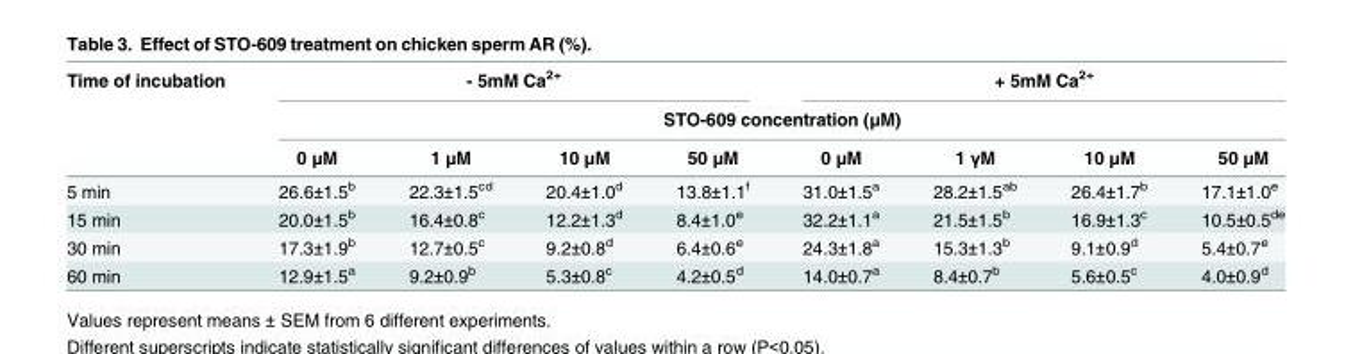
<table><thead><tr><td rowspan="3">Time of incubation</td><td colspan="4">- 5mM Ca<sup>2+</sup></td><td colspan="4">+ 5mM Ca<sup>2+</sup></td></tr><tr><td colspan="8">STO-609 concentration (μM)</td></tr><tr><td>0 μM</td><td>1 μM</td><td>10 μM</td><td>50 μM</td><td>0 μM</td><td>1 γM</td><td>10 μM</td><td>50 μM</td></tr></thead><tbody><tr><td>5 min</td><td>26.6±1.5<sup>b</sup></td><td>22.3±1.5<sup>cd</sup></td><td>20.4±1.0<sup>d</sup></td><td>13.8±1.1<sup>f</sup></td><td>31.0±1.5<sup>a</sup></td><td>28.2±1.5<sup>ab</sup></td><td>26.4±1.7<sup>b</sup></td><td>17.1±1.0<sup>e</sup></td></tr><tr><td>15 min</td><td>20.0±1.5<sup>b</sup></td><td>16.4±0.8<sup>c</sup></td><td>12.2±1.3<sup>d</sup></td><td>8.4±1.0<sup>e</sup></td><td>32.2±1.1<sup>a</sup></td><td>21.5±1.5<sup>b</sup></td><td>16.9±1.3<sup>c</sup></td><td>10.5±0.5<sup>de</sup></td></tr><tr><td>30 min</td><td>17.3±1.9<sup>b</sup></td><td>12.7±0.5<sup>c</sup></td><td>9.2±0.8<sup>d</sup></td><td>6.4±0.6<sup>e</sup></td><td>24.3±1.8<sup>a</sup></td><td>15.3±1.3<sup>b</sup></td><td>9.1±0.9<sup>d</sup></td><td>5.4±0.7<sup>e</sup></td></tr><tr><td>60 min</td><td>12.9±1.5<sup>a</sup></td><td>9.2±0.9<sup>b</sup></td><td>5.3±0.8<sup>c</sup></td><td>4.2±0.5<sup>d</sup></td><td>14.0±0.7<sup>a</sup></td><td>8.4±0.7<sup>b</sup></td><td>5.6±0.5<sup>c</sup></td><td>4.0±0.9<sup>d</sup></td></tr></tbody></table>